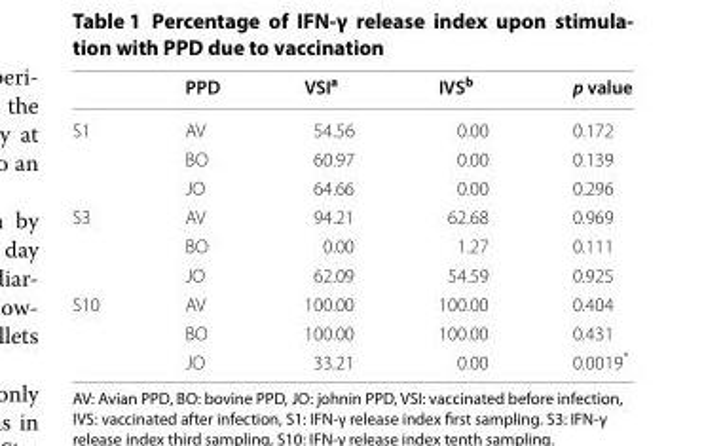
<table><thead><tr><td></td><td>PPD</td><td>VSI<sup>a</sup></td><td>IVS<sup>b</sup></td><td>p value</td></tr></thead><tbody><tr><td rowspan="3">S1</td><td>AV</td><td>54.56</td><td>0.00</td><td>0.172</td></tr><tr><td>BO</td><td>60.97</td><td>0.00</td><td>0.139</td></tr><tr><td>JO</td><td>64.66</td><td>0.00</td><td>0.296</td></tr><tr><td rowspan="3">S3</td><td>AV</td><td>94.21</td><td>62.68</td><td>0.969</td></tr><tr><td>BO</td><td>0.00</td><td>1.27</td><td>0.111</td></tr><tr><td>JO</td><td>62.09</td><td>54.59</td><td>0.925</td></tr><tr><td rowspan="3">S10</td><td>AV</td><td>100.00</td><td>100.00</td><td>0.404</td></tr><tr><td>BO</td><td>100.00</td><td>100.00</td><td>0.431</td></tr><tr><td>JO</td><td>33.21</td><td>0.00</td><td>0.0019*</td></tr></tbody></table>